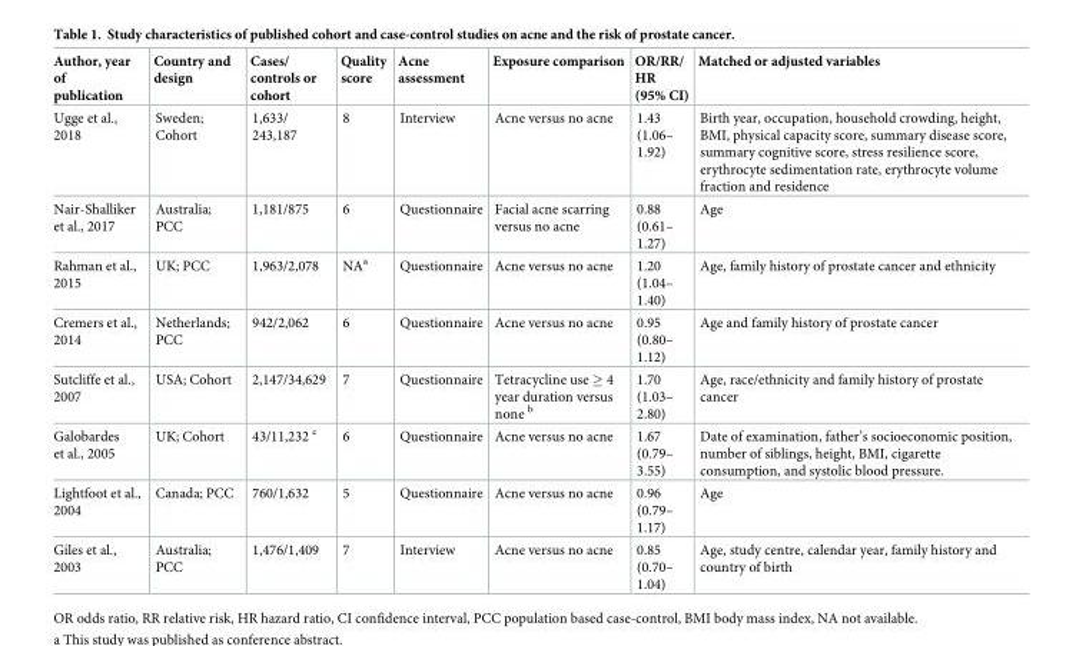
<table><thead><tr><td>Author, year of publication</td><td>Country and design</td><td>Cases/ controls or cohort</td><td>Quality score</td><td>Acne assessment</td><td>Exposure comparison</td><td>OR/RR/ HR (95% CI)</td><td>Matched or adjusted variables</td></tr></thead><tbody><tr><td>Ugge et al., 2018</td><td>Sweden; Cohort</td><td>1,633/ 243,187</td><td>8</td><td>Interview</td><td>Acne versus no acne</td><td>1.43 (1.06– 1.92)</td><td>Birth year, occupation, household crowding, height, BMI, physical capacity score, summary disease score, summary cognitive score, stress resilience score, erythrocyte sedimentation rate, erythrocyte volume fraction and residence</td></tr><tr><td>Nair-Shalliker et al., 2017</td><td>Australia; PCC</td><td>1,181/875</td><td>6</td><td>Questionnaire</td><td>Facial acne scarring versus no acne</td><td>0.88 (0.61– 1.27)</td><td>Age</td></tr><tr><td>Rahman et al., 2015</td><td>UK; PCC</td><td>1,963/2,078</td><td>NA<sup>a</sup></td><td>Questionnaire</td><td>Acne versus no acne</td><td>1.20 (1.04– 1.40)</td><td>Age, family history of prostate cancer and ethnicity</td></tr><tr><td>Cremers et al., 2014</td><td>Netherlands; PCC</td><td>942/2,062</td><td>6</td><td>Questionnaire</td><td>Acne versus no acne</td><td>0.95 (0.80– 1.12)</td><td>Age and family history of prostate cancer</td></tr><tr><td>Sutcliffe et al., 2007</td><td>USA; Cohort</td><td>2,147/34,629</td><td>7</td><td>Questionnaire</td><td>Tetracycline use ≥ 4 year duration versus none <sup>b</sup></td><td>1.70 (1.03– 2.80)</td><td>Age, race/ethnicity and family history of prostate cancer</td></tr><tr><td>Galobardes et al., 2005</td><td>UK; Cohort</td><td>43/11,232 <sup>c</sup></td><td>6</td><td>Questionnaire</td><td>Acne versus no acne</td><td>1.67 (0.79– 3.55)</td><td>Date of examination, father’s socioeconomic position, number of siblings, height, BMI, cigarette consumption, and systolic blood pressure.</td></tr><tr><td>Lightfoot et al., 2004</td><td>Canada; PCC</td><td>760/1,632</td><td>5</td><td>Questionnaire</td><td>Acne versus no acne</td><td>0.96 (0.79– 1.17)</td><td>Age</td></tr><tr><td>Giles et al., 2003</td><td>Australia; PCC</td><td>1,476/1,409</td><td>7</td><td>Interview</td><td>Acne versus no acne</td><td>0.85 (0.70– 1.04)</td><td>Age, study centre, calendar year, family history and country of birth</td></tr></tbody></table>